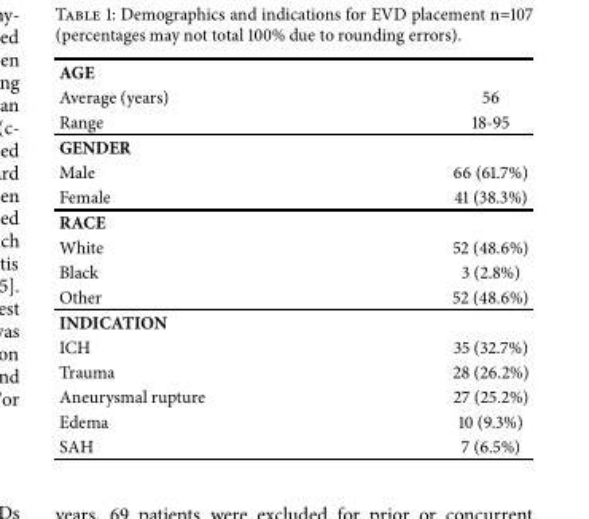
<table><tbody><tr><td colspan="2">AGE</td></tr><tr><td>Average (years)</td><td>56</td></tr><tr><td>Range</td><td>18-95</td></tr><tr><td colspan="2">GENDER</td></tr><tr><td>Male</td><td>66 (61.7%)</td></tr><tr><td>Female</td><td>41 (38.3%)</td></tr><tr><td colspan="2">RACE</td></tr><tr><td>White</td><td>52 (48.6%)</td></tr><tr><td>Black</td><td>3 (2.8%)</td></tr><tr><td>Other</td><td>52 (48.6%)</td></tr><tr><td colspan="2">INDICATION</td></tr><tr><td>ICH</td><td>35 (32.7%)</td></tr><tr><td>Trauma</td><td>28 (26.2%)</td></tr><tr><td>Aneurysmal rupture</td><td>27 (25.2%)</td></tr><tr><td>Edema</td><td>10 (9.3%)</td></tr><tr><td>SAH</td><td>7 (6.5%)</td></tr></tbody></table>